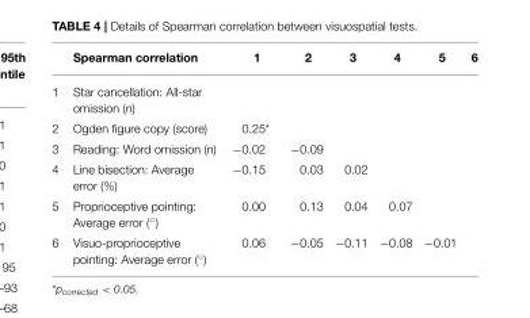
<table><thead><tr><td></td><td>Spearman correlation</td><td>1</td><td>2</td><td>3</td><td>4</td><td>5</td><td>6</td></tr></thead><tbody><tr><td>1</td><td>Star cancellation: All-star omission (n)</td><td></td><td></td><td></td><td></td><td></td><td></td></tr><tr><td>2</td><td>Ogden figure copy (score)</td><td>0.25*</td><td></td><td></td><td></td><td></td><td></td></tr><tr><td>3</td><td>Reading: Word omission (n)</td><td>−0.02</td><td>−0.09</td><td></td><td></td><td></td><td></td></tr><tr><td>4</td><td>Line bisection: Average error (%)</td><td>−0.15</td><td>0.03</td><td>0.02</td><td></td><td></td><td></td></tr><tr><td>5</td><td>Proprioceptive pointing: Average error (◦)</td><td>0.00</td><td>0.13</td><td>0.04</td><td>0.07</td><td></td><td></td></tr><tr><td>6</td><td>Visuo-proprioceptive pointing: Average error (◦)</td><td>0.06</td><td>−0.05</td><td>−0.11</td><td>−0.08</td><td>−0.01</td><td></td></tr></tbody></table>